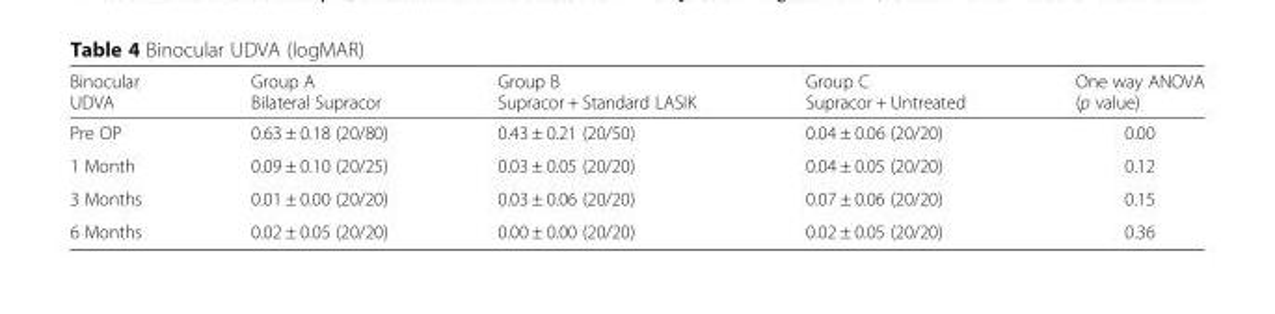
<table><thead><tr><td>Binocular UDVA</td><td>Group A Bilateral Supracor</td><td>Group B Supracor + Standard LASIK</td><td>Group C Supracor + Untreated</td><td>One way ANOVA (p value)</td></tr></thead><tbody><tr><td>Pre OP</td><td>0.63 ± 0.18 (20/80)</td><td>0.43 ± 0.21 (20/50)</td><td>0.04 ± 0.06 (20/20)</td><td>0.00</td></tr><tr><td>1 Month</td><td>0.09 ± 0.10 (20/25)</td><td>0.03 ± 0.05 (20/20)</td><td>0.04 ± 0.05 (20/20)</td><td>0.12</td></tr><tr><td>3 Months</td><td>0.01 ± 0.00 (20/20)</td><td>0.03 ± 0.06 (20/20)</td><td>0.07 ± 0.06 (20/20)</td><td>0.15</td></tr><tr><td>6 Months</td><td>0.02 ± 0.05 (20/20)</td><td>0.00 ± 0.00 (20/20)</td><td>0.02 ± 0.05 (20/20)</td><td>0.36</td></tr></tbody></table>